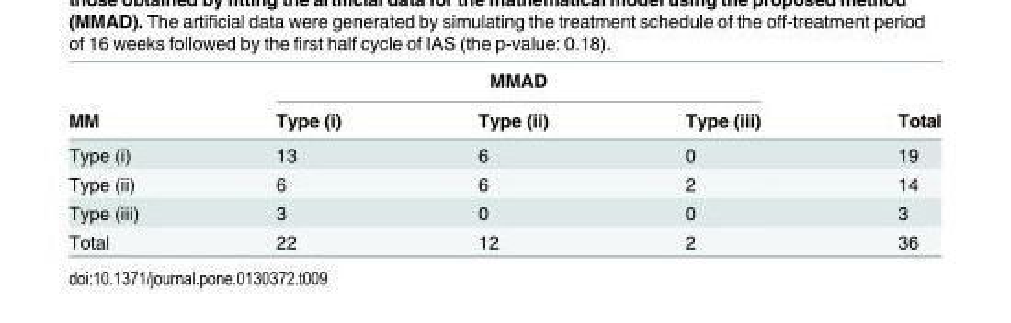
<table><thead><tr><td rowspan="2">MM</td><td colspan="3">MMAD</td><td rowspan="2">Total</td></tr><tr><td>Type (i)</td><td>Type (ii)</td><td>Type (iii)</td></tr></thead><tbody><tr><td>Type (i)</td><td>13</td><td>6</td><td>0</td><td>19</td></tr><tr><td>Type (ii)</td><td>6</td><td>6</td><td>2</td><td>14</td></tr><tr><td>Type (iii)</td><td>3</td><td>0</td><td>0</td><td>3</td></tr><tr><td>Total</td><td>22</td><td>12</td><td>2</td><td>36</td></tr></tbody></table>